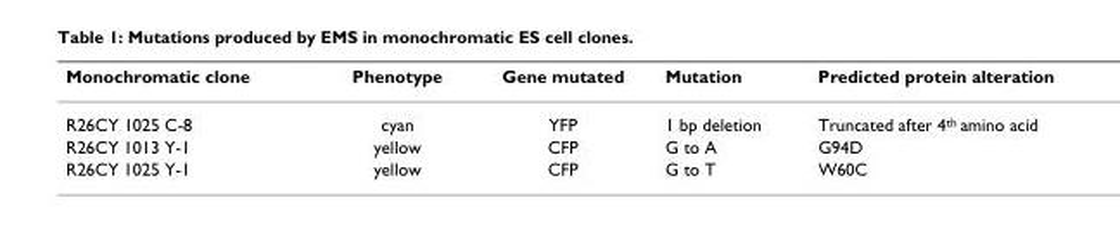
<table><thead><tr><td>Monochromatic clone</td><td>Phenotype</td><td>Gene mutated</td><td>Mutation</td><td>Predicted protein alteration</td></tr></thead><tbody><tr><td>R26CY 1025 C-8</td><td>cyan</td><td>YFP</td><td>1 bp deletion</td><td>Truncated after 4th amino acid</td></tr><tr><td>R26CY 1013 Y-1</td><td>yellow</td><td>CFP</td><td>G to A</td><td>G94D</td></tr><tr><td>R26CY 1025 Y-1</td><td>yellow</td><td>CFP</td><td>G to T</td><td>W60C</td></tr></tbody></table>